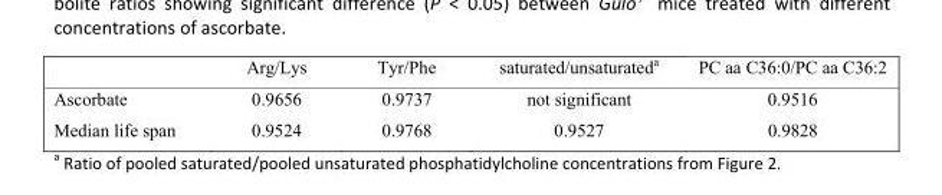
<table><thead><tr><td></td><td>Arg/Lys</td><td>Tyr/Phe</td><td>saturated/unsaturated<sup>a</sup></td><td>PC aa C36:0/PC aa C36:2</td></tr></thead><tbody><tr><td>Ascorbate</td><td>0.9656</td><td>0.9737</td><td>not significant</td><td>0.9516</td></tr><tr><td>Median life span</td><td>0.9524</td><td>0.9768</td><td>0.9527</td><td>0.9828</td></tr></tbody></table>